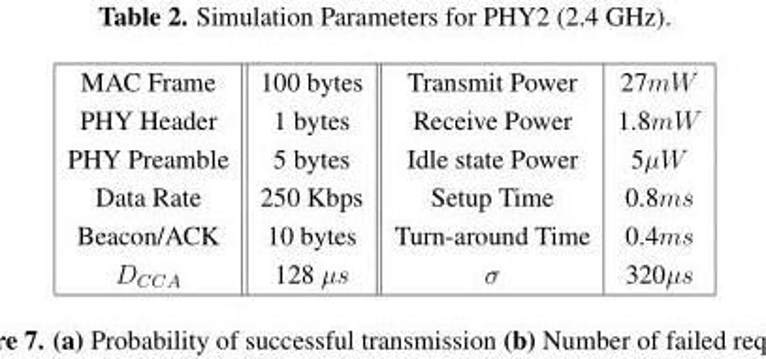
<table><tbody><tr><td>MAC Frame</td><td>100 bytes</td><td>Transmit Power</td><td>27mW</td></tr><tr><td>PHY Header</td><td>1 bytes</td><td>Receive Power</td><td>1.8mW</td></tr><tr><td>PHY Preamble</td><td>5 bytes</td><td>Idle state Power</td><td>5µW</td></tr><tr><td>Data Rate</td><td>250 Kbps</td><td>Setup Time</td><td>0.8ms</td></tr><tr><td>Beacon/ACK</td><td>10 bytes</td><td>Turn-around Time</td><td>0.4ms</td></tr><tr><td>D<sub>CCA</sub></td><td>128 µs</td><td>σ</td><td>320µs</td></tr></tbody></table>